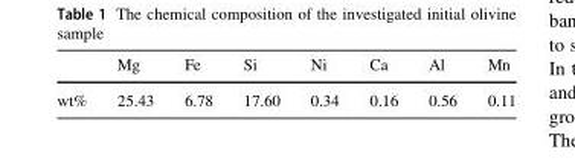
<table><thead><tr><td></td><td>Mg</td><td>Fe</td><td>Si</td><td>Ni</td><td>Ca</td><td>Al</td><td>Mn</td></tr></thead><tbody><tr><td>wt%</td><td>25.43</td><td>6.78</td><td>17.60</td><td>0.34</td><td>0.16</td><td>0.56</td><td>0.11</td></tr></tbody></table>